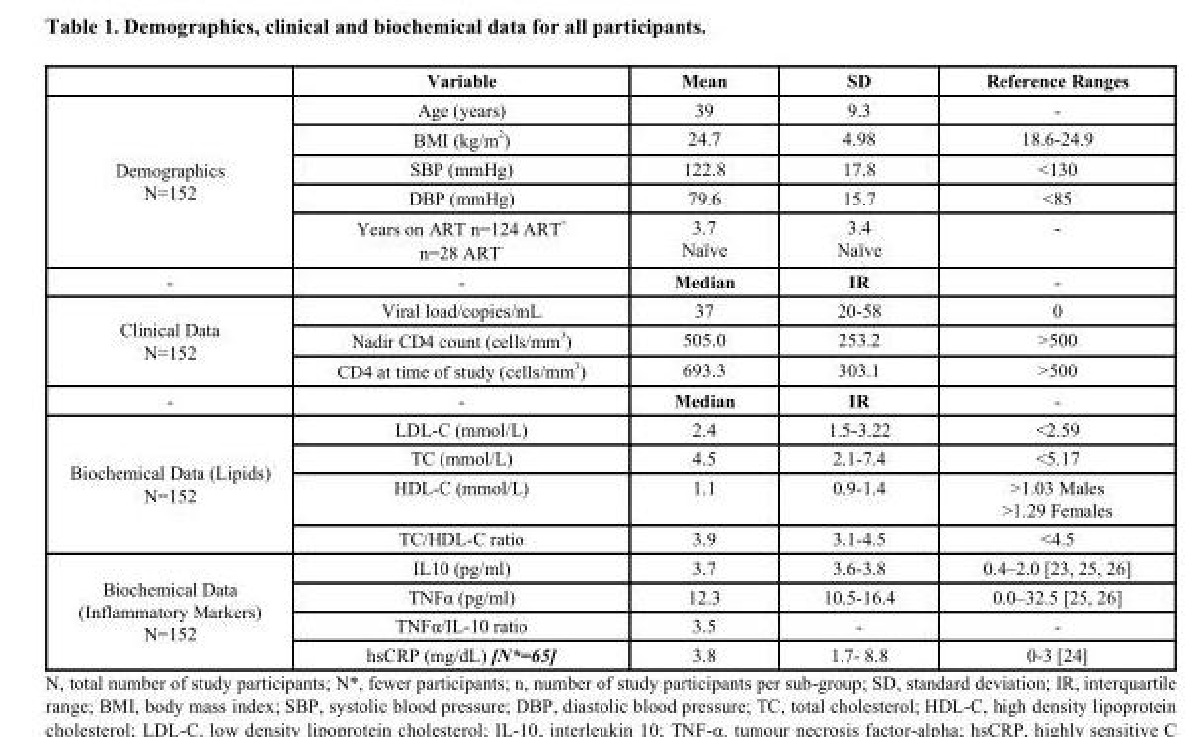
<table><thead><tr><td></td><td>Variable</td><td>Mean</td><td>SD</td><td>Reference Ranges</td></tr></thead><tbody><tr><td rowspan="5">Demographics N=152</td><td>Age (years)</td><td>39</td><td>9.3</td><td>-</td></tr><tr><td>BMI (kg/m <sup>2</sup>)</td><td>24.7</td><td>4.98</td><td>18.6-24.9</td></tr><tr><td>SBP (mmHg)</td><td>122.8</td><td>17.8</td><td>&lt;130</td></tr><tr><td>DBP (mmHg)</td><td>79.6</td><td>15.7</td><td>&lt;85</td></tr><tr><td>Years on ART n=124 ART <sup>+</sup> n=28 ART <sup>-</sup></td><td>3.7 Naïve</td><td>3.4 Naïve</td><td>-</td></tr><tr><td>-</td><td>-</td><td>Median</td><td>IR</td><td>-</td></tr><tr><td rowspan="3">Clinical Data N=152</td><td>Viral load/copies/mL</td><td>37</td><td>20-58</td><td>0</td></tr><tr><td>Nadir CD4 count (cells/mm <sup>3</sup>)</td><td>505.0</td><td>253.2</td><td>&gt;500</td></tr><tr><td>CD4 at time of study (cells/mm <sup>3</sup>)</td><td>693.3</td><td>303.1</td><td>&gt;500</td></tr><tr><td>-</td><td>-</td><td>Median</td><td>IR</td><td>-</td></tr><tr><td rowspan="4">Biochemical Data (Lipids) N=152</td><td>LDL-C (mmol/L)</td><td>2.4</td><td>1.5-3.22</td><td>&lt;2.59</td></tr><tr><td>TC (mmol/L)</td><td>4.5</td><td>2.1-7.4</td><td>&lt;5.17</td></tr><tr><td>HDL-C (mmol/L)</td><td>1.1</td><td>0.9-1.4</td><td>&gt;1.03 Males &gt;1.29 Females</td></tr><tr><td>TC/HDL-C ratio</td><td>3.9</td><td>3.1-4.5</td><td>&lt;4.5</td></tr><tr><td rowspan="4">Biochemical Data (Inflammatory Markers) N=152</td><td>IL10 (pg/ml)</td><td>3.7</td><td>3.6-3.8</td><td>0.4–2.0 [23, 25, 26]</td></tr><tr><td>TNFα (pg/ml)</td><td>12.3</td><td>10.5-16.4</td><td>0.0–32.5 [25, 26]</td></tr><tr><td>TNFα/IL-10 ratio</td><td>3.5</td><td>-</td><td>-</td></tr><tr><td>hsCRP (mg/dL) [N*=65]</td><td>3.8</td><td>1.7- 8.8</td><td>0-3 [24]</td></tr></tbody></table>